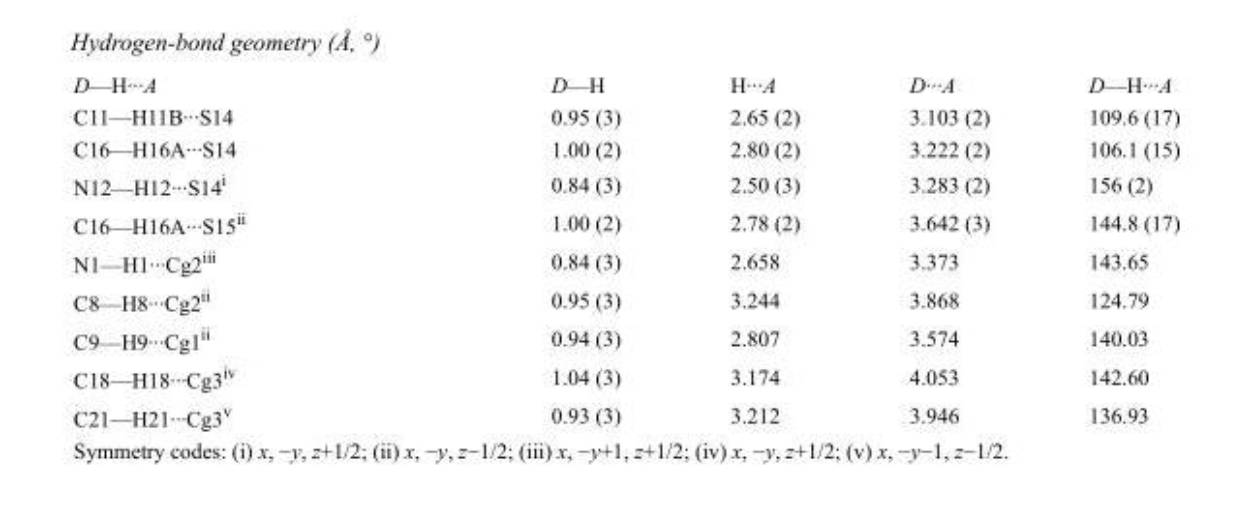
<table><tbody><tr><td>D—H···A</td><td>D—H</td><td>H···A</td><td>D···A</td><td>D—H···A</td></tr><tr><td>C11—H11B···S14</td><td>0.95 (3)</td><td>2.65 (2)</td><td>3.103 (2)</td><td>109.6 (17)</td></tr><tr><td>C16—H16A···S14</td><td>1.00 (2)</td><td>2.80 (2)</td><td>3.222 (2)</td><td>106.1 (15)</td></tr><tr><td>N12—H12···S14<sup>i</sup></td><td>0.84 (3)</td><td>2.50 (3)</td><td>3.283 (2)</td><td>156 (2)</td></tr><tr><td>C16—H16A···S15<sup>ii</sup></td><td>1.00 (2)</td><td>2.78 (2)</td><td>3.642 (3)</td><td>144.8 (17)</td></tr><tr><td>N1—H1···Cg2<sup>iii</sup></td><td>0.84 (3)</td><td>2.658</td><td>3.373</td><td>143.65</td></tr><tr><td>C8—H8···Cg2<sup>ii</sup></td><td>0.95 (3)</td><td>3.244</td><td>3.868</td><td>124.79</td></tr><tr><td>C9—H9···Cg1<sup>ii</sup></td><td>0.94 (3)</td><td>2.807</td><td>3.574</td><td>140.03</td></tr><tr><td>C18—H18···Cg3<sup>iv</sup></td><td>1.04 (3)</td><td>3.174</td><td>4.053</td><td>142.60</td></tr><tr><td>C21—H21···Cg3<sup>v</sup></td><td>0.93 (3)</td><td>3.212</td><td>3.946</td><td>136.93</td></tr></tbody></table>